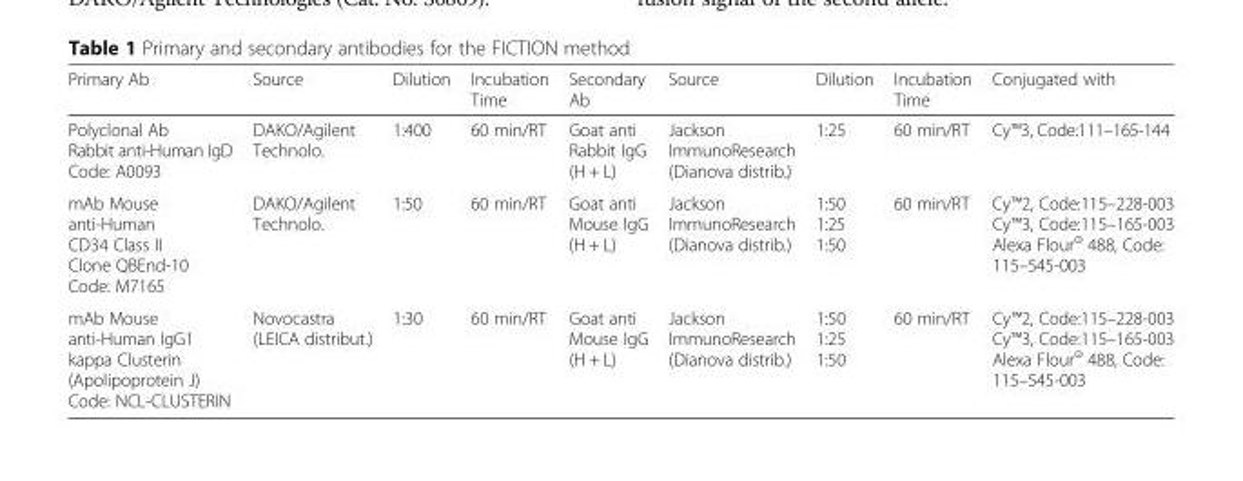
<table><thead><tr><td>Primary Ab</td><td>Source</td><td>Dilution</td><td>Incubation Time</td><td>Secondary Ab</td><td>Source</td><td>Dilution</td><td>Incubation Time</td><td>Conjugated with</td></tr></thead><tbody><tr><td>Polyclonal Ab Rabbit anti-Human IgD Code: A0093</td><td>DAKO/Agilent Technolo.</td><td>1:400</td><td>60 min/RT</td><td>Goat anti Rabbit IgG (H + L)</td><td>Jackson ImmunoResearch (Dianova distrib.)</td><td>1:25</td><td>60 min/RT</td><td>Cy™3, Code:111–165-144</td></tr><tr><td>mAb Mouse anti-Human CD34 Class II Clone QBEnd-10 Code: M7165</td><td>DAKO/Agilent Technolo.</td><td>1:50</td><td>60 min/RT</td><td>Goat anti Mouse IgG (H + L)</td><td>Jackson ImmunoResearch (Dianova distrib.)</td><td>1:50 1:25 1:50</td><td>60 min/RT</td><td>Cy™2, Code:115–228-003 Cy™3, Code:115–165-003 Alexa Flour<sup>ʘ</sup> 488, Code: 115–545-003</td></tr><tr><td>mAb Mouse anti-Human IgG1 kappa Clusterin (Apolipoprotein J) Code: NCL-CLUSTERIN</td><td>Novocastra (LEICA distribut.)</td><td>1:30</td><td>60 min/RT</td><td>Goat anti Mouse IgG (H + L)</td><td>Jackson ImmunoResearch (Dianova distrib.)</td><td>1:50 1:25 1:50</td><td>60 min/RT</td><td>Cy™2, Code:115–228-003 Cy™3, Code:115–165-003 Alexa Flour<sup>ʘ</sup> 488, Code: 115–545-003</td></tr></tbody></table>